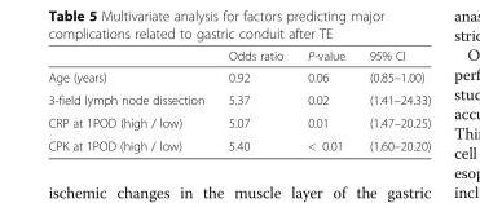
<table><thead><tr><td></td><td>Odds ratio</td><td>P-value</td><td>95% CI</td></tr></thead><tbody><tr><td>Age (years)</td><td>0.92</td><td>0.06</td><td>(0.85–1.00)</td></tr><tr><td>3-field lymph node dissection</td><td>5.37</td><td>0.02</td><td>(1.41–24.33)</td></tr><tr><td>CRP at 1POD (high / low)</td><td>5.07</td><td>0.01</td><td>(1.47–20.25)</td></tr><tr><td>CPK at 1POD (high / low)</td><td>5.40</td><td>&lt; 0.01</td><td>(1.60–20.20)</td></tr></tbody></table>